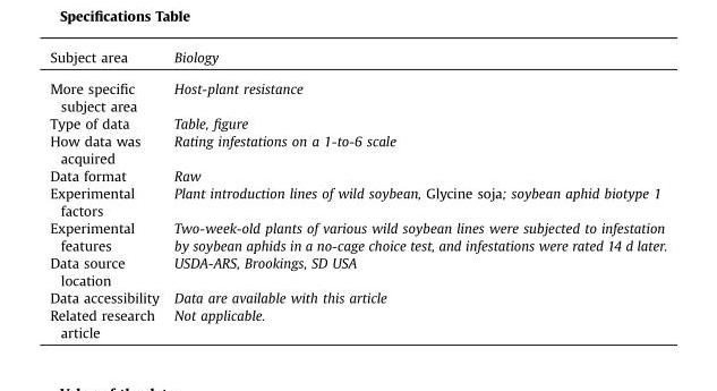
<table><thead><tr><td>Subject area</td><td>Biology</td></tr></thead><tbody><tr><td>More specific subject area</td><td>Host-plant resistance</td></tr><tr><td>Type of data</td><td>Table, figure</td></tr><tr><td>How data was acquired</td><td>Rating infestations on a 1-to-6 scale</td></tr><tr><td>Data format</td><td>Raw</td></tr><tr><td>Experimental factors</td><td>Plant introduction lines of wild soybean, Glycine soja; soybean aphid biotype 1</td></tr><tr><td>Experimental features</td><td>Two-week-old plants of various wild soybean lines were subjected to infestation by soybean aphids in a no-cage choice test, and infestations were rated 14 d later.</td></tr><tr><td>Data source location</td><td>USDA-ARS, Brookings, SD USA</td></tr><tr><td>Data accessibility</td><td>Data are available with this article</td></tr><tr><td>Related research article</td><td>Not applicable.</td></tr></tbody></table>